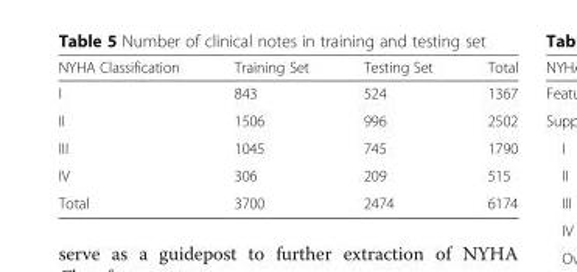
<table><thead><tr><td>NYHA Classification</td><td>Training Set</td><td>Testing Set</td><td>Total</td></tr></thead><tbody><tr><td>I</td><td>843</td><td>524</td><td>1367</td></tr><tr><td>II</td><td>1506</td><td>996</td><td>2502</td></tr><tr><td>III</td><td>1045</td><td>745</td><td>1790</td></tr><tr><td>IV</td><td>306</td><td>209</td><td>515</td></tr><tr><td>Total</td><td>3700</td><td>2474</td><td>6174</td></tr></tbody></table>